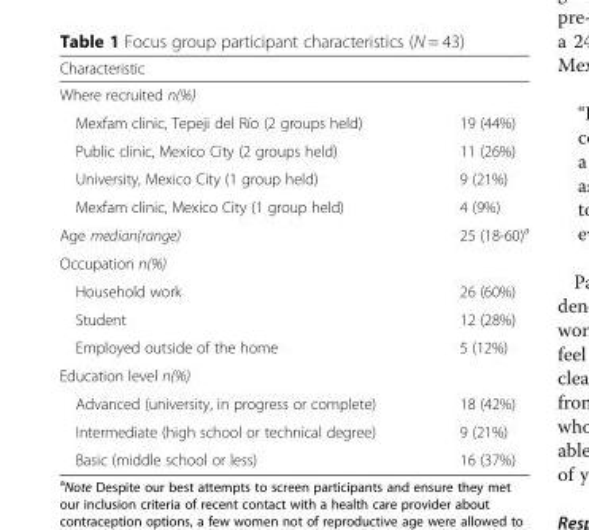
<table><thead><tr><td colspan="2">Characteristic</td></tr><tr><td>Where recruited n(%)</td><td></td></tr></thead><tbody><tr><td>Mexfam clinic, Tepeji del Río (2 groups held)</td><td>19 (44%)</td></tr><tr><td>Public clinic, Mexico City (2 groups held)</td><td>11 (26%)</td></tr><tr><td>University, Mexico City (1 group held)</td><td>9 (21%)</td></tr><tr><td>Mexfam clinic, Mexico City (1 group held)</td><td>4 (9%)</td></tr><tr><td>Age median(range)</td><td>25 (18-60)<sup>a</sup></td></tr><tr><td colspan="2">Occupation n(%)</td></tr><tr><td>Household work</td><td>26 (60%)</td></tr><tr><td>Student</td><td>12 (28%)</td></tr><tr><td>Employed outside of the home</td><td>5 (12%)</td></tr><tr><td colspan="2">Education level n(%)</td></tr><tr><td>Advanced (university, in progress or complete)</td><td>18 (42%)</td></tr><tr><td>Intermediate (high school or technical degree)</td><td>9 (21%)</td></tr><tr><td>Basic (middle school or less)</td><td>16 (37%)</td></tr></tbody></table>